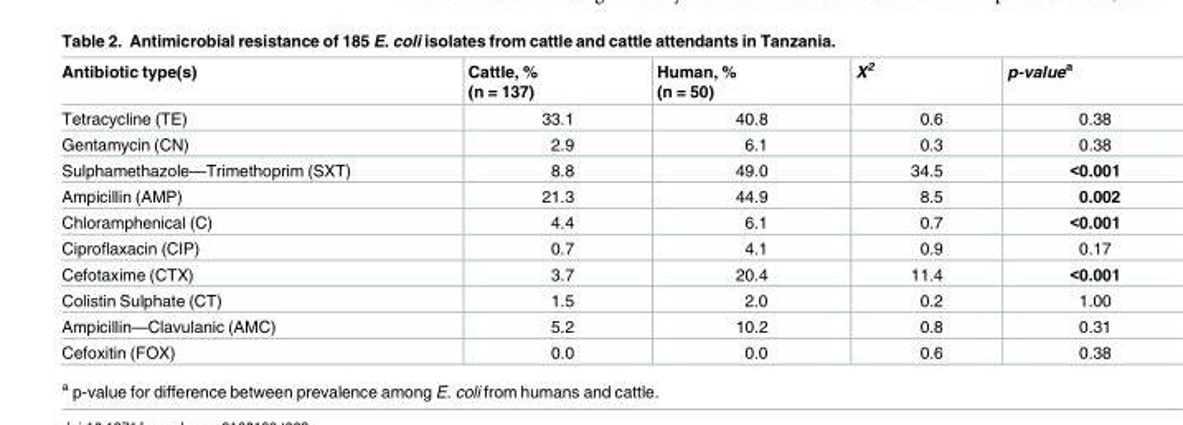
<table><thead><tr><td>Antibiotic type(s)</td><td>Cattle, % (n = 137)</td><td>Human, % (n = 50)</td><td>X<sup>2</sup></td><td>p-value<sup>a</sup></td></tr></thead><tbody><tr><td>Tetracycline (TE)</td><td>33.1</td><td>40.8</td><td>0.6</td><td>0.38</td></tr><tr><td>Gentamycin (CN)</td><td>2.9</td><td>6.1</td><td>0.3</td><td>0.38</td></tr><tr><td>Sulphamethazole—Trimethoprim (SXT)</td><td>8.8</td><td>49.0</td><td>34.5</td><td>&lt;0.001</td></tr><tr><td>Ampicillin (AMP)</td><td>21.3</td><td>44.9</td><td>8.5</td><td>0.002</td></tr><tr><td>Chloramphenical (C)</td><td>4.4</td><td>6.1</td><td>0.7</td><td>&lt;0.001</td></tr><tr><td>Ciproflaxacin (CIP)</td><td>0.7</td><td>4.1</td><td>0.9</td><td>0.17</td></tr><tr><td>Cefotaxime (CTX)</td><td>3.7</td><td>20.4</td><td>11.4</td><td>&lt;0.001</td></tr><tr><td>Colistin Sulphate (CT)</td><td>1.5</td><td>2.0</td><td>0.2</td><td>1.00</td></tr><tr><td>Ampicillin—Clavulanic (AMC)</td><td>5.2</td><td>10.2</td><td>0.8</td><td>0.31</td></tr><tr><td>Cefoxitin (FOX)</td><td>0.0</td><td>0.0</td><td>0.6</td><td>0.38</td></tr></tbody></table>